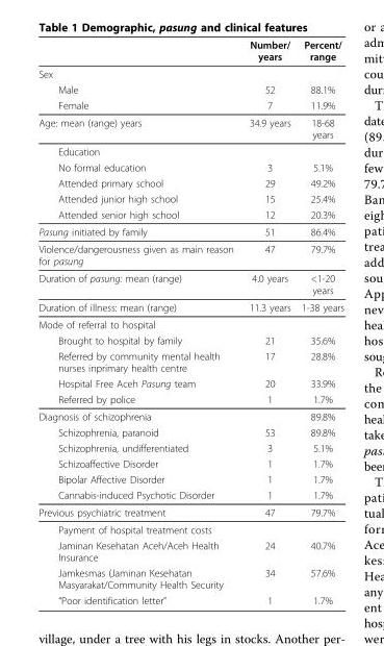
<table><thead><tr><td></td><td>Number/ years</td><td>Percent/ range</td></tr></thead><tbody><tr><td colspan="3">Sex</td></tr><tr><td>Male</td><td>52</td><td>88.1%</td></tr><tr><td>Female</td><td>7</td><td>11.9%</td></tr><tr><td>Age: mean (range) years</td><td>34.9 years</td><td>18-68 years</td></tr><tr><td colspan="3">Education</td></tr><tr><td>No formal education</td><td>3</td><td>5.1%</td></tr><tr><td>Attended primary school</td><td>29</td><td>49.2%</td></tr><tr><td>Attended junior high school</td><td>15</td><td>25.4%</td></tr><tr><td>Attended senior high school</td><td>12</td><td>20.3%</td></tr><tr><td>Pasung initiated by family</td><td>51</td><td>86.4%</td></tr><tr><td>Violence/dangerousness given as main reason for pasung</td><td>47</td><td>79.7%</td></tr><tr><td>Duration of pasung: mean (range)</td><td>4.0 years</td><td>&lt;1-20 years</td></tr><tr><td>Duration of illness: mean (range)</td><td>11.3 years</td><td>1-38 years</td></tr><tr><td colspan="3">Mode of referral to hospital</td></tr><tr><td>Brought to hospital by family</td><td>21</td><td>35.6%</td></tr><tr><td>Referred by community mental health nurses inprimary health centre</td><td>17</td><td>28.8%</td></tr><tr><td>Hospital Free Aceh Pasung team</td><td>20</td><td>33.9%</td></tr><tr><td>Referred by police</td><td>1</td><td>1.7%</td></tr><tr><td>Diagnosis of schizophrenia</td><td></td><td>89.8%</td></tr><tr><td>Schizophrenia, paranoid</td><td>53</td><td>89.8%</td></tr><tr><td>Schizophrenia, undifferentiated</td><td>3</td><td>5.1%</td></tr><tr><td>Schizoaffective Disorder</td><td>1</td><td>1.7%</td></tr><tr><td>Bipolar Affective Disorder</td><td>1</td><td>1.7%</td></tr><tr><td>Cannabis-induced Psychotic Disorder</td><td>1</td><td>1.7%</td></tr><tr><td>Previous psychiatric treatment</td><td>47</td><td>79.7%</td></tr><tr><td colspan="3">Payment of hospital treatment costs</td></tr><tr><td>Jaminan Kesehatan Aceh/Aceh Health Insurance</td><td>24</td><td>40.7%</td></tr><tr><td>Jamkesmas (Jaminan Kesehatan Masyarakat/Community Health Security</td><td>34</td><td>57.6%</td></tr><tr><td>“Poor identification letter”</td><td>1</td><td>1.7%</td></tr></tbody></table>